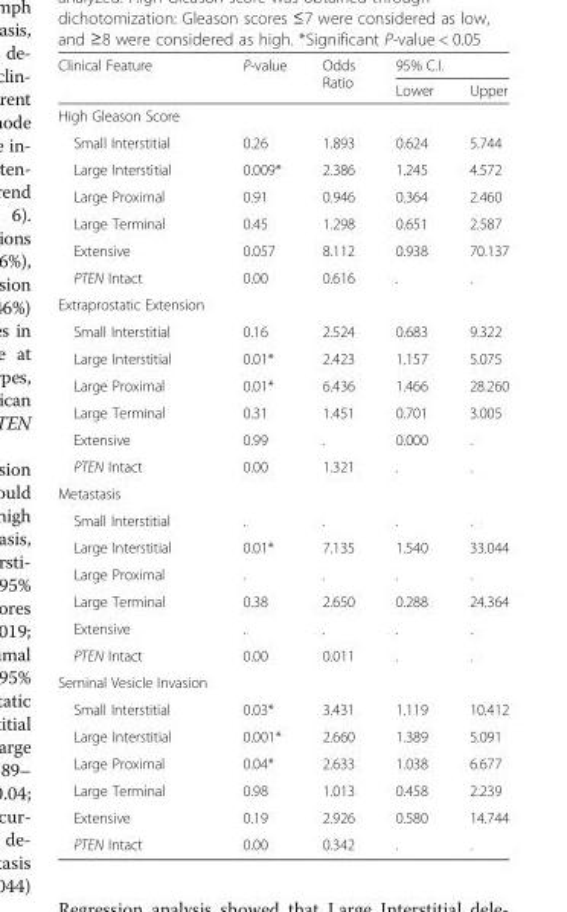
<table><thead><tr><td rowspan="2">Clinical Feature</td><td rowspan="2">P-value</td><td rowspan="2">Odds Ratio</td><td colspan="2">95% C.I.</td></tr><tr><td>Lower</td><td>Upper</td></tr></thead><tbody><tr><td colspan="5">High Gleason Score</td></tr><tr><td>Small Interstitial</td><td>0.26</td><td>1.893</td><td>0.624</td><td>5.744</td></tr><tr><td>Large Interstitial</td><td>0.009*</td><td>2.386</td><td>1.245</td><td>4.572</td></tr><tr><td>Large Proximal</td><td>0.91</td><td>0.946</td><td>0.364</td><td>2.460</td></tr><tr><td>Large Terminal</td><td>0.45</td><td>1.298</td><td>0.651</td><td>2.587</td></tr><tr><td>Extensive</td><td>0.057</td><td>8.112</td><td>0.938</td><td>70.137</td></tr><tr><td>PTEN Intact</td><td>0.00</td><td>0.616</td><td>.</td><td>.</td></tr><tr><td colspan="5">Extraprostatic Extension</td></tr><tr><td>Small Interstitial</td><td>0.16</td><td>2.524</td><td>0.683</td><td>9.322</td></tr><tr><td>Large Interstitial</td><td>0.01*</td><td>2.423</td><td>1.157</td><td>5.075</td></tr><tr><td>Large Proximal</td><td>0.01*</td><td>6.436</td><td>1.466</td><td>28.260</td></tr><tr><td>Large Terminal</td><td>0.31</td><td>1.451</td><td>0.701</td><td>3.005</td></tr><tr><td>Extensive</td><td>0.99</td><td>.</td><td>0.000</td><td>.</td></tr><tr><td>PTEN Intact</td><td>0.00</td><td>1.321</td><td>.</td><td>.</td></tr><tr><td colspan="5">Metastasis</td></tr><tr><td>Small Interstitial</td><td>.</td><td>.</td><td>.</td><td>.</td></tr><tr><td>Large Interstitial</td><td>0.01*</td><td>7.135</td><td>1.540</td><td>33.044</td></tr><tr><td>Large Proximal</td><td>.</td><td>.</td><td>.</td><td>.</td></tr><tr><td>Large Terminal</td><td>0.38</td><td>2.650</td><td>0.288</td><td>24.364</td></tr><tr><td>Extensive</td><td>.</td><td>.</td><td>.</td><td>.</td></tr><tr><td>PTEN Intact</td><td>0.00</td><td>0.011</td><td>.</td><td>.</td></tr><tr><td colspan="5">Seminal Vesicle Invasion</td></tr><tr><td>Small Interstitial</td><td>0.03*</td><td>3.431</td><td>1.119</td><td>10.412</td></tr><tr><td>Large Interstitial</td><td>0.001*</td><td>2.660</td><td>1.389</td><td>5.091</td></tr><tr><td>Large Proximal</td><td>0.04*</td><td>2.633</td><td>1.038</td><td>6.677</td></tr><tr><td>Large Terminal</td><td>0.98</td><td>1.013</td><td>0.458</td><td>2.239</td></tr><tr><td>Extensive</td><td>0.19</td><td>2.926</td><td>0.580</td><td>14.744</td></tr><tr><td>PTEN Intact</td><td>0.00</td><td>0.342</td><td>.</td><td>.</td></tr></tbody></table>